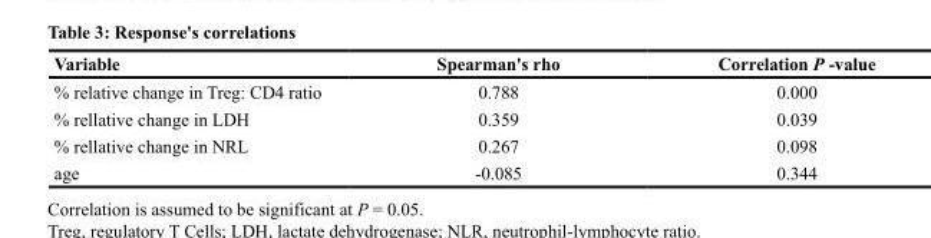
<table><thead><tr><td>Variable</td><td>Spearman&#x27;s rho</td><td>Correlation P -value</td></tr></thead><tbody><tr><td>% relative change in Treg: CD4 ratio</td><td>0.788</td><td>0.000</td></tr><tr><td>% rellative change in LDH</td><td>0.359</td><td>0.039</td></tr><tr><td>% rellative change in NRL</td><td>0.267</td><td>0.098</td></tr><tr><td>age</td><td>-0.085</td><td>0.344</td></tr></tbody></table>